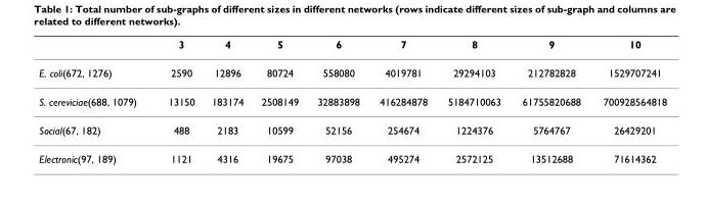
<table><thead><tr><td></td><td>3</td><td>4</td><td>5</td><td>6</td><td>7</td><td>8</td><td>9</td><td>10</td></tr></thead><tbody><tr><td>E. coli(672, 1276)</td><td>2590</td><td>12896</td><td>80724</td><td>558080</td><td>4019781</td><td>29294103</td><td>212782828</td><td>1529707241</td></tr><tr><td>S. cereviciae(688, 1079)</td><td>13150</td><td>183174</td><td>2508149</td><td>32883898</td><td>416284878</td><td>5184710063</td><td>61755820688</td><td>700928564818</td></tr><tr><td>Social(67, 182)</td><td>488</td><td>2183</td><td>10599</td><td>52156</td><td>254674</td><td>1224376</td><td>5764767</td><td>26429201</td></tr><tr><td>Electronic(97, 189)</td><td>1121</td><td>4316</td><td>19675</td><td>97038</td><td>495274</td><td>2572125</td><td>13512688</td><td>71614362</td></tr></tbody></table>